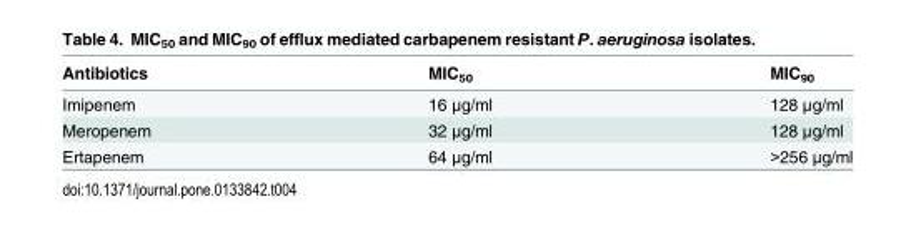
<table><thead><tr><td>Antibiotics</td><td>MIC<sub>50</sub></td><td>MIC<sub>90</sub></td></tr></thead><tbody><tr><td>Imipenem</td><td>16 μg/ml</td><td>128 μg/ml</td></tr><tr><td>Meropenem</td><td>32 μg/ml</td><td>128 μg/ml</td></tr><tr><td>Ertapenem</td><td>64 μg/ml</td><td>&gt;256 μg/ml</td></tr></tbody></table>